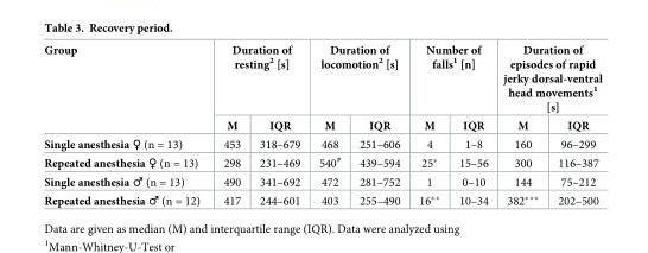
<table><thead><tr><td rowspan="2">Group</td><td colspan="2">Duration of resting<sup>2</sup> [s]</td><td colspan="2">Duration of locomotion<sup>2</sup> [s]</td><td colspan="2">Number of falls<sup>1</sup> [n]</td><td colspan="2">Duration of episodes of rapid jerky dorsal-ventral head movements<sup>1</sup> [s]</td></tr><tr><td>M</td><td>IQR</td><td>M</td><td>IQR</td><td>M</td><td>IQR</td><td>M</td><td>IQR</td></tr></thead><tbody><tr><td>Single anesthesia ♀ (n = 13)</td><td>453</td><td>318–679</td><td>468</td><td>251–606</td><td>4</td><td>1–8</td><td>160</td><td>96–299</td></tr><tr><td>Repeated anesthesia ♀ (n = 13)</td><td>298</td><td>231–469</td><td>540<sup>#</sup></td><td>439–594</td><td>25*</td><td>15–56</td><td>300</td><td>116–387</td></tr><tr><td>Single anesthesia ♂ (n = 13)</td><td>490</td><td>341–692</td><td>472</td><td>281–752</td><td>1</td><td>0–10</td><td>144</td><td>75–212</td></tr><tr><td>Repeated anesthesia ♂ (n = 12)</td><td>417</td><td>244–601</td><td>403</td><td>255–490</td><td>16**</td><td>10–34</td><td>382***</td><td>202–500</td></tr></tbody></table>